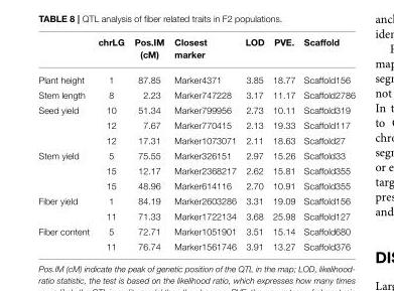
<table><thead><tr><td></td><td>chrLG</td><td>Pos.IM (cM)</td><td>Closest marker</td><td>LOD</td><td>PVE.</td><td>Scaffold</td></tr></thead><tbody><tr><td>Plant height</td><td>1</td><td>87.85</td><td>Marker4371</td><td>3.85</td><td>18.77</td><td>Scaffold156</td></tr><tr><td>Stem length</td><td>8</td><td>2.23</td><td>Marker747228</td><td>3.17</td><td>11.17</td><td>Scaffold2786</td></tr><tr><td rowspan="3">Seed yield</td><td>10</td><td>51.34</td><td>Marker799956</td><td>2.73</td><td>10.11</td><td>Scaffold319</td></tr><tr><td>12</td><td>7.67</td><td>Marker770415</td><td>2.13</td><td>19.33</td><td>Scaffold117</td></tr><tr><td>12</td><td>17.31</td><td>Marker1073071</td><td>2.11</td><td>18.63</td><td>Scaffold27</td></tr><tr><td rowspan="3">Stem yield</td><td>5</td><td>75.55</td><td>Marker326151</td><td>2.97</td><td>15.26</td><td>Scaffold33</td></tr><tr><td>15</td><td>12.17</td><td>Marker2368217</td><td>2.62</td><td>15.81</td><td>Scaffold355</td></tr><tr><td>15</td><td>48.96</td><td>Marker614116</td><td>2.70</td><td>10.91</td><td>Scaffold355</td></tr><tr><td rowspan="2">Fiber yield</td><td>1</td><td>84.19</td><td>Marker2603286</td><td>3.31</td><td>19.09</td><td>Scaffold156</td></tr><tr><td>11</td><td>71.33</td><td>Marker1722134</td><td>3.68</td><td>25.98</td><td>Scaffold127</td></tr><tr><td rowspan="2">Fiber content</td><td>5</td><td>72.71</td><td>Marker1051901</td><td>3.51</td><td>15.14</td><td>Scaffold680</td></tr><tr><td>11</td><td>76.74</td><td>Marker1561746</td><td>3.91</td><td>13.27</td><td>Scaffold376</td></tr></tbody></table>